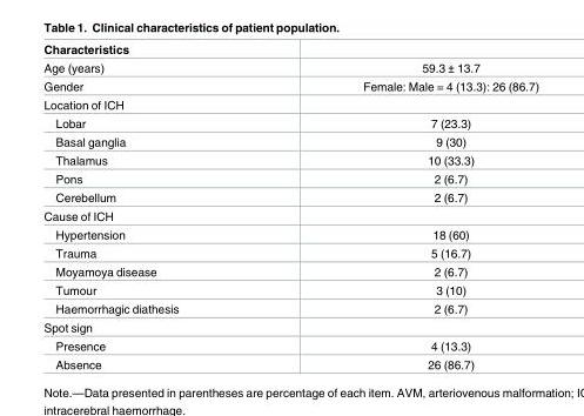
<table><thead><tr><td>Characteristics</td><td></td></tr></thead><tbody><tr><td>Age (years)</td><td>59.3 ± 13.7</td></tr><tr><td>Gender</td><td>Female: Male = 4 (13.3): 26 (86.7)</td></tr><tr><td colspan="2">Location of ICH</td></tr><tr><td>Lobar</td><td>7 (23.3)</td></tr><tr><td>Basal ganglia</td><td>9 (30)</td></tr><tr><td>Thalamus</td><td>10 (33.3)</td></tr><tr><td>Pons</td><td>2 (6.7)</td></tr><tr><td>Cerebellum</td><td>2 (6.7)</td></tr><tr><td colspan="2">Cause of ICH</td></tr><tr><td>Hypertension</td><td>18 (60)</td></tr><tr><td>Trauma</td><td>5 (16.7)</td></tr><tr><td>Moyamoya disease</td><td>2 (6.7)</td></tr><tr><td>Tumour</td><td>3 (10)</td></tr><tr><td>Haemorrhagic diathesis</td><td>2 (6.7)</td></tr><tr><td colspan="2">Spot sign</td></tr><tr><td>Presence</td><td>4 (13.3)</td></tr><tr><td>Absence</td><td>26 (86.7)</td></tr></tbody></table>